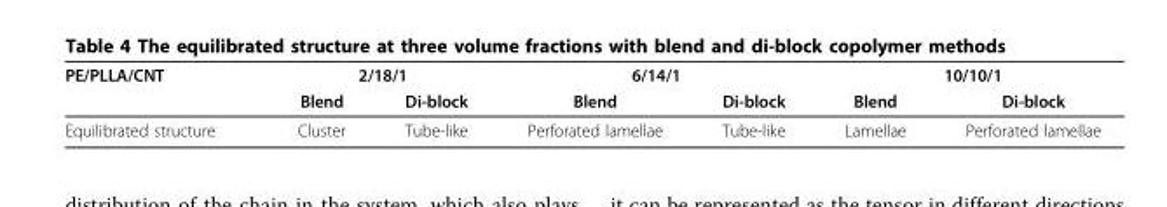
<table><thead><tr><td rowspan="2">PE/PLLA/CNT</td><td colspan="2">2/18/1</td><td colspan="2">6/14/1</td><td colspan="2">10/10/1</td></tr><tr><td>Blend</td><td>Di-block</td><td>Blend</td><td>Di-block</td><td>Blend</td><td>Di-block</td></tr></thead><tbody><tr><td>Equilibrated structure</td><td>Cluster</td><td>Tube-like</td><td>Perforated lamellae</td><td>Tube-like</td><td>Lamellae</td><td>Perforated lamellae</td></tr></tbody></table>